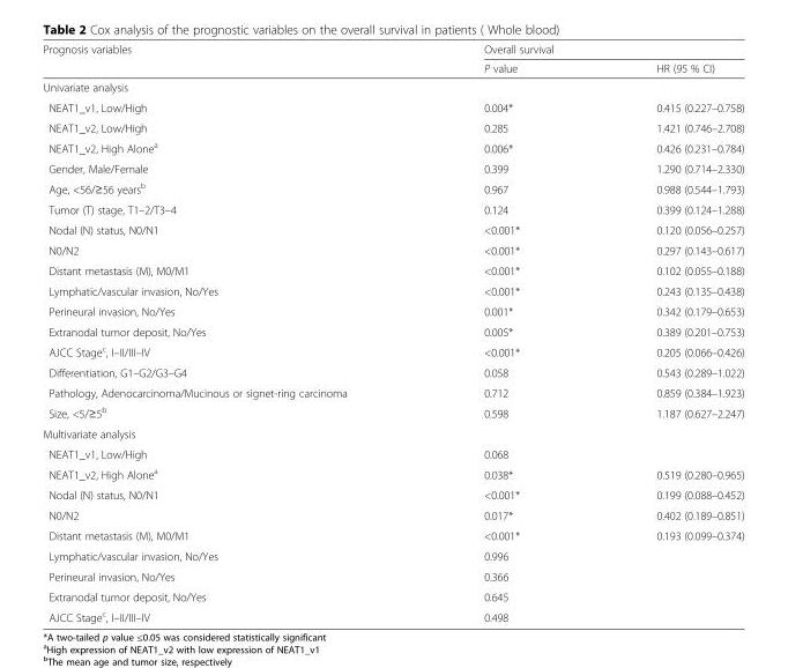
<table><thead><tr><td rowspan="2">Prognosis variables</td><td colspan="2">Overall survival</td></tr><tr><td>P value</td><td>HR (95 % CI)</td></tr></thead><tbody><tr><td colspan="3">Univariate analysis</td></tr><tr><td>NEAT1_v1, Low/High</td><td>0.004*</td><td>0.415 (0.227–0.758)</td></tr><tr><td>NEAT1_v2, Low/High</td><td>0.285</td><td>1.421 (0.746–2.708)</td></tr><tr><td>NEAT1_v2, High Alone<sup>a</sup></td><td>0.006*</td><td>0.426 (0.231–0.784)</td></tr><tr><td>Gender, Male/Female</td><td>0.399</td><td>1.290 (0.714–2.330)</td></tr><tr><td>Age, &lt;56/≥56 years<sup>b</sup></td><td>0.967</td><td>0.988 (0.544–1.793)</td></tr><tr><td>Tumor (T) stage, T1–2/T3–4</td><td>0.124</td><td>0.399 (0.124–1.288)</td></tr><tr><td>Nodal (N) status, N0/N1</td><td>&lt;0.001*</td><td>0.120 (0.056–0.257)</td></tr><tr><td>N0/N2</td><td>&lt;0.001*</td><td>0.297 (0.143–0.617)</td></tr><tr><td>Distant metastasis (M), M0/M1</td><td>&lt;0.001*</td><td>0.102 (0.055–0.188)</td></tr><tr><td>Lymphatic/vascular invasion, No/Yes</td><td>&lt;0.001*</td><td>0.243 (0.135–0.438)</td></tr><tr><td>Perineural invasion, No/Yes</td><td>0.001*</td><td>0.342 (0.179–0.653)</td></tr><tr><td>Extranodal tumor deposit, No/Yes</td><td>0.005*</td><td>0.389 (0.201–0.753)</td></tr><tr><td>AJCC Stage<sup>c</sup>, I–II/III–IV</td><td>&lt;0.001*</td><td>0.205 (0.066–0.426)</td></tr><tr><td>Differentiation, G1–G2/G3–G4</td><td>0.058</td><td>0.543 (0.289–1.022)</td></tr><tr><td>Pathology, Adenocarcinoma/Mucinous or signet-ring carcinoma</td><td>0.712</td><td>0.859 (0.384–1.923)</td></tr><tr><td>Size, &lt;5/≥5<sup>b</sup></td><td>0.598</td><td>1.187 (0.627–2.247)</td></tr><tr><td colspan="3">Multivariate analysis</td></tr><tr><td>NEAT1_v1, Low/High</td><td>0.068</td><td></td></tr><tr><td>NEAT1_v2, High Alone<sup>a</sup></td><td>0.038*</td><td>0.519 (0.280–0.965)</td></tr><tr><td>Nodal (N) status, N0/N1</td><td>&lt;0.001*</td><td>0.199 (0.088–0.452)</td></tr><tr><td>N0/N2</td><td>0.017*</td><td>0.402 (0.189–0.851)</td></tr><tr><td>Distant metastasis (M), M0/M1</td><td>&lt;0.001*</td><td>0.193 (0.099–0.374)</td></tr><tr><td>Lymphatic/vascular invasion, No/Yes</td><td>0.996</td><td></td></tr><tr><td>Perineural invasion, No/Yes</td><td>0.366</td><td></td></tr><tr><td>Extranodal tumor deposit, No/Yes</td><td>0.645</td><td></td></tr><tr><td>AJCC Stage<sup>c</sup>, I–II/III–IV</td><td>0.498</td><td></td></tr></tbody></table>